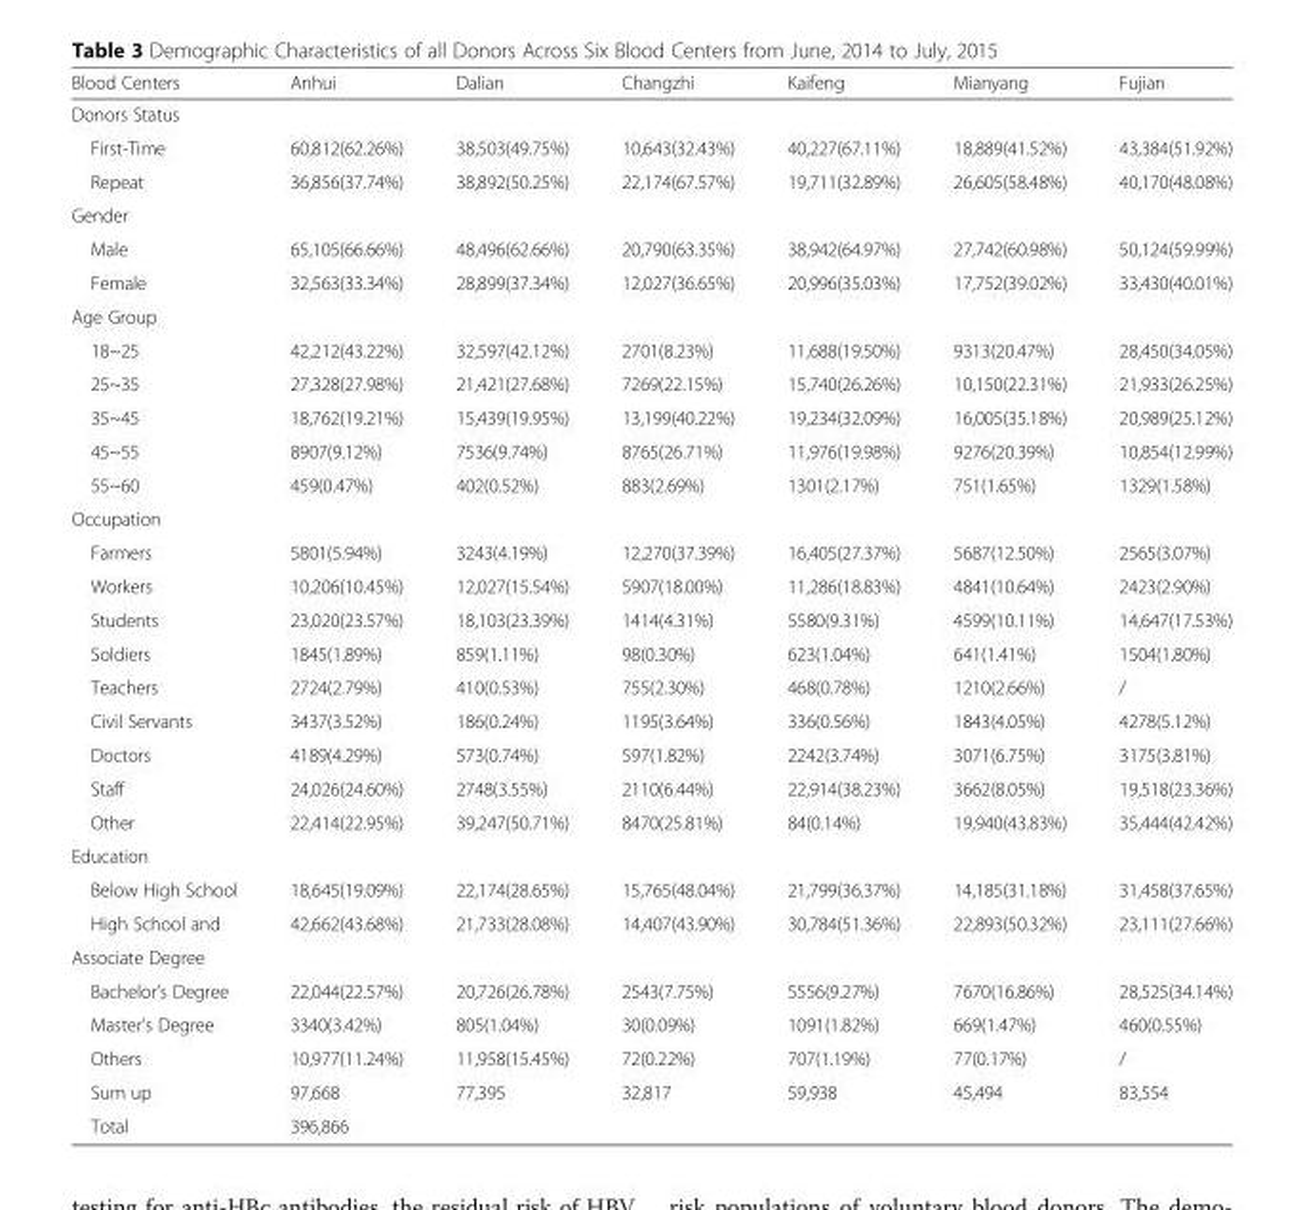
<table><thead><tr><td>Blood Centers</td><td>Anhui</td><td>Dalian</td><td>Changzhi</td><td>Kaifeng</td><td>Mianyang</td><td>Fujian</td></tr></thead><tbody><tr><td colspan="7">Donors Status</td></tr><tr><td>First-Time</td><td>60,812(62.26%)</td><td>38,503(49.75%)</td><td>10,643(32.43%)</td><td>40,227(67.11%)</td><td>18,889(41.52%)</td><td>43,384(51.92%)</td></tr><tr><td>Repeat</td><td>36,856(37.74%)</td><td>38,892(50.25%)</td><td>22,174(67.57%)</td><td>19,711(32.89%)</td><td>26,605(58.48%)</td><td>40,170(48.08%)</td></tr><tr><td colspan="7">Gender</td></tr><tr><td>Male</td><td>65,105(66.66%)</td><td>48,496(62.66%)</td><td>20,790(63.35%)</td><td>38,942(64.97%)</td><td>27,742(60.98%)</td><td>50,124(59.99%)</td></tr><tr><td>Female</td><td>32,563(33.34%)</td><td>28,899(37.34%)</td><td>12,027(36.65%)</td><td>20,996(35.03%)</td><td>17,752(39.02%)</td><td>33,430(40.01%)</td></tr><tr><td colspan="7">Age Group</td></tr><tr><td>18~25</td><td>42,212(43.22%)</td><td>32,597(42.12%)</td><td>2701(8.23%)</td><td>11,688(19.50%)</td><td>9313(20.47%)</td><td>28,450(34.05%)</td></tr><tr><td>25~35</td><td>27,328(27.98%)</td><td>21,421(27.68%)</td><td>7269(22.15%)</td><td>15,740(26.26%)</td><td>10,150(22.31%)</td><td>21,933(26.25%)</td></tr><tr><td>35~45</td><td>18,762(19.21%)</td><td>15,439(19.95%)</td><td>13,199(40.22%)</td><td>19,234(32.09%)</td><td>16,005(35.18%)</td><td>20,989(25.12%)</td></tr><tr><td>45~55</td><td>8907(9.12%)</td><td>7536(9.74%)</td><td>8765(26.71%)</td><td>11,976(19.98%)</td><td>9276(20.39%)</td><td>10,854(12.99%)</td></tr><tr><td>55~60</td><td>459(0.47%)</td><td>402(0.52%)</td><td>883(2.69%)</td><td>1301(2.17%)</td><td>751(1.65%)</td><td>1329(1.58%)</td></tr><tr><td colspan="7">Occupation</td></tr><tr><td>Farmers</td><td>5801(5.94%)</td><td>3243(4.19%)</td><td>12,270(37.39%)</td><td>16,405(27.37%)</td><td>5687(12.50%)</td><td>2565(3.07%)</td></tr><tr><td>Workers</td><td>10,206(10.45%)</td><td>12,027(15.54%)</td><td>5907(18.00%)</td><td>11,286(18.83%)</td><td>4841(10.64%)</td><td>2423(2.90%)</td></tr><tr><td>Students</td><td>23,020(23.57%)</td><td>18,103(23.39%)</td><td>1414(4.31%)</td><td>5580(9.31%)</td><td>4599(10.11%)</td><td>14,647(17.53%)</td></tr><tr><td>Soldiers</td><td>1845(1.89%)</td><td>859(1.11%)</td><td>98(0.30%)</td><td>623(1.04%)</td><td>641(1.41%)</td><td>1504(1.80%)</td></tr><tr><td>Teachers</td><td>2724(2.79%)</td><td>410(0.53%)</td><td>755(2.30%)</td><td>468(0.78%)</td><td>1210(2.66%)</td><td>/</td></tr><tr><td>Civil Servants</td><td>3437(3.52%)</td><td>186(0.24%)</td><td>1195(3.64%)</td><td>336(0.56%)</td><td>1843(4.05%)</td><td>4278(5.12%)</td></tr><tr><td>Doctors</td><td>4189(4.29%)</td><td>573(0.74%)</td><td>597(1.82%)</td><td>2242(3.74%)</td><td>3071(6.75%)</td><td>3175(3.81%)</td></tr><tr><td>Staff</td><td>24,026(24.60%)</td><td>2748(3.55%)</td><td>2110(6.44%)</td><td>22,914(38.23%)</td><td>3662(8.05%)</td><td>19,518(23.36%)</td></tr><tr><td>Other</td><td>22,414(22.95%)</td><td>39,247(50.71%)</td><td>8470(25.81%)</td><td>84(0.14%)</td><td>19,940(43.83%)</td><td>35,444(42.42%)</td></tr><tr><td colspan="7">Education</td></tr><tr><td>Below High School</td><td>18,645(19.09%)</td><td>22,174(28.65%)</td><td>15,765(48.04%)</td><td>21,799(36.37%)</td><td>14,185(31.18%)</td><td>31,458(37.65%)</td></tr><tr><td>High School and</td><td>42,662(43.68%)</td><td>21,733(28.08%)</td><td>14,407(43.90%)</td><td>30,784(51.36%)</td><td>22,893(50.32%)</td><td>23,111(27.66%)</td></tr><tr><td colspan="7">Associate Degree</td></tr><tr><td>Bachelor’s Degree</td><td>22,044(22.57%)</td><td>20,726(26.78%)</td><td>2543(7.75%)</td><td>5556(9.27%)</td><td>7670(16.86%)</td><td>28,525(34.14%)</td></tr><tr><td>Master’s Degree</td><td>3340(3.42%)</td><td>805(1.04%)</td><td>30(0.09%)</td><td>1091(1.82%)</td><td>669(1.47%)</td><td>460(0.55%)</td></tr><tr><td>Others</td><td>10,977(11.24%)</td><td>11,958(15.45%)</td><td>72(0.22%)</td><td>707(1.19%)</td><td>77(0.17%)</td><td>/</td></tr><tr><td>Sum up</td><td>97,668</td><td>77,395</td><td>32,817</td><td>59,938</td><td>45,494</td><td>83,554</td></tr><tr><td>Total</td><td>396,866</td><td></td><td></td><td></td><td></td><td></td></tr></tbody></table>